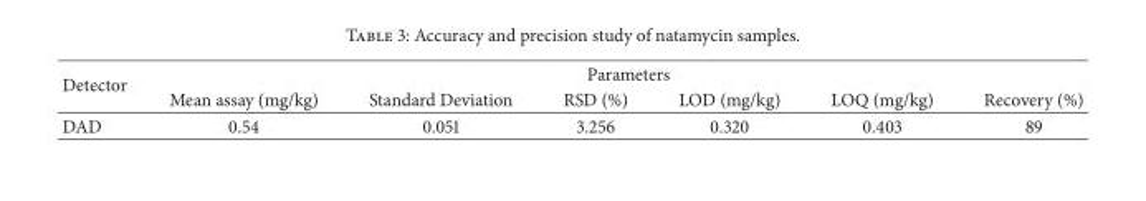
<table><thead><tr><td rowspan="2">Detector</td><td colspan="6">Parameters</td></tr><tr><td>Mean assay (mg/kg)</td><td>Standard Deviation</td><td>RSD (%)</td><td>LOD (mg/kg)</td><td>LOQ (mg/kg)</td><td>Recovery (%)</td></tr></thead><tbody><tr><td>DAD</td><td>0.54</td><td>0.051</td><td>3.256</td><td>0.320</td><td>0.403</td><td>89</td></tr></tbody></table>